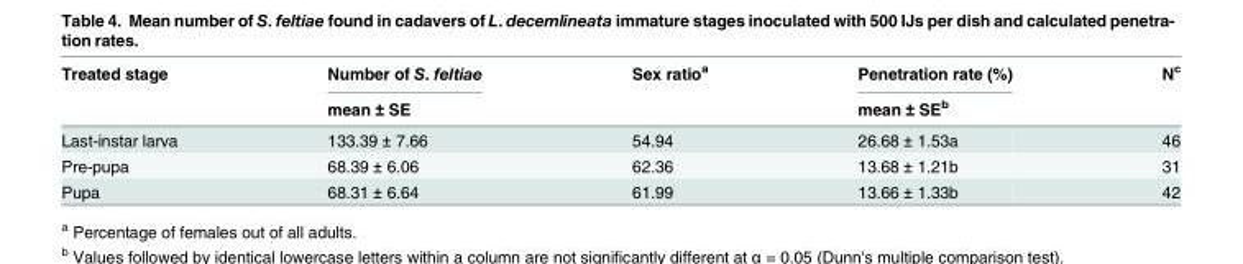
<table><thead><tr><td rowspan="2">Treated stage</td><td rowspan="2">Number of S. feltiae mean ± SE</td><td rowspan="2">Sex ratio<sup>a</sup></td><td rowspan="2">Penetration rate (%) mean ± SE<sup>b</sup></td><td rowspan="2">N<sup>c</sup></td></tr><tr></tr></thead><tbody><tr><td>Last-instar larva</td><td>133.39 ± 7.66</td><td>54.94</td><td>26.68 ± 1.53a</td><td>46</td></tr><tr><td>Pre-pupa</td><td>68.39 ± 6.06</td><td>62.36</td><td>13.68 ± 1.21b</td><td>31</td></tr><tr><td>Pupa</td><td>68.31 ± 6.64</td><td>61.99</td><td>13.66 ± 1.33b</td><td>42</td></tr></tbody></table>